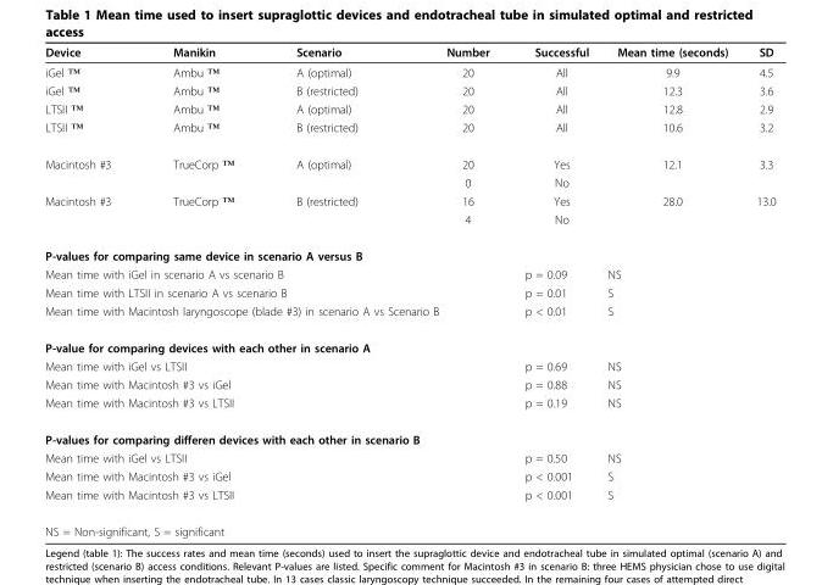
<table><thead><tr><td>Device</td><td>Manikin</td><td>Scenario</td><td>Number</td><td>Successful</td><td>Mean time (seconds)</td><td>SD</td></tr></thead><tbody><tr><td>iGel ™</td><td>Ambu ™</td><td>A (optimal)</td><td>20</td><td>All</td><td>9.9</td><td>4.5</td></tr><tr><td>iGel ™</td><td>Ambu ™</td><td>B (restricted)</td><td>20</td><td>All</td><td>12.3</td><td>3.6</td></tr><tr><td>LTSII ™</td><td>Ambu ™</td><td>A (optimal)</td><td>20</td><td>All</td><td>12.8</td><td>2.9</td></tr><tr><td>LTSII ™</td><td>Ambu ™</td><td>B (restricted)</td><td>20</td><td>All</td><td>10.6</td><td>3.2</td></tr><tr><td rowspan="2">Macintosh #3</td><td>TrueCorp ™</td><td>A (optimal)</td><td>20</td><td>Yes</td><td>12.1</td><td>3.3</td></tr><tr><td></td><td></td><td>0</td><td>No</td><td></td><td></td></tr><tr><td rowspan="2">Macintosh #3</td><td>TrueCorp ™</td><td>B (restricted)</td><td>16</td><td>Yes</td><td>28.0</td><td>13.0</td></tr><tr><td></td><td></td><td>4</td><td>No</td><td></td><td></td></tr><tr><td colspan="7">P-values for comparing same device in scenario A versus B</td></tr><tr><td colspan="3">Mean time with iGel in scenario A vs scenario B</td><td></td><td>p = 0.09</td><td>NS</td><td></td></tr><tr><td colspan="3">Mean time with LTSII in scenario A vs scenario B</td><td></td><td>p = 0.01</td><td>S</td><td></td></tr><tr><td colspan="4">Mean time with Macintosh laryngoscope (blade #3) in scenario A vs Scenario B</td><td>p &lt; 0.01</td><td>S</td><td></td></tr><tr><td colspan="7">P-value for comparing devices with each other in scenario A</td></tr><tr><td colspan="2">Mean time with iGel vs LTSII</td><td></td><td></td><td>p = 0.69</td><td>NS</td><td></td></tr><tr><td colspan="3">Mean time with Macintosh #3 vs iGel</td><td></td><td>p = 0.88</td><td>NS</td><td></td></tr><tr><td colspan="3">Mean time with Macintosh #3 vs LTSII</td><td></td><td>p = 0.19</td><td>NS</td><td></td></tr><tr><td colspan="7">P-values for comparing differen devices with each other in scenario B</td></tr><tr><td colspan="2">Mean time with iGel vs LTSII</td><td></td><td></td><td>p = 0.50</td><td>NS</td><td></td></tr><tr><td colspan="3">Mean time with Macintosh #3 vs iGel</td><td></td><td>p &lt; 0.001</td><td>S</td><td></td></tr><tr><td colspan="3">Mean time with Macintosh #3 vs LTSII</td><td></td><td>p &lt; 0.001</td><td>S</td><td></td></tr><tr><td colspan="3">NS = Non-significant, S = significant</td><td></td><td></td><td></td><td></td></tr></tbody></table>